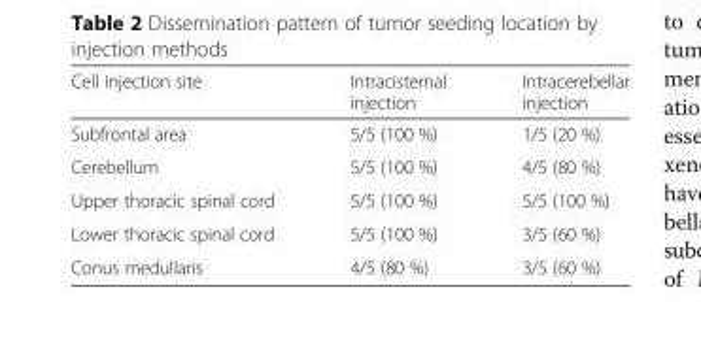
<table><thead><tr><td>Cell injection site</td><td>Intracisternal injection</td><td>Intracerebellar injection</td></tr></thead><tbody><tr><td>Subfrontal area</td><td>5/5 (100 %)</td><td>1/5 (20 %)</td></tr><tr><td>Cerebellum</td><td>5/5 (100 %)</td><td>4/5 (80 %)</td></tr><tr><td>Upper thoracic spinal cord</td><td>5/5 (100 %)</td><td>5/5 (100 %)</td></tr><tr><td>Lower thoracic spinal cord</td><td>5/5 (100 %)</td><td>3/5 (60 %)</td></tr><tr><td>Conus medullaris</td><td>4/5 (80 %)</td><td>3/5 (60 %)</td></tr></tbody></table>